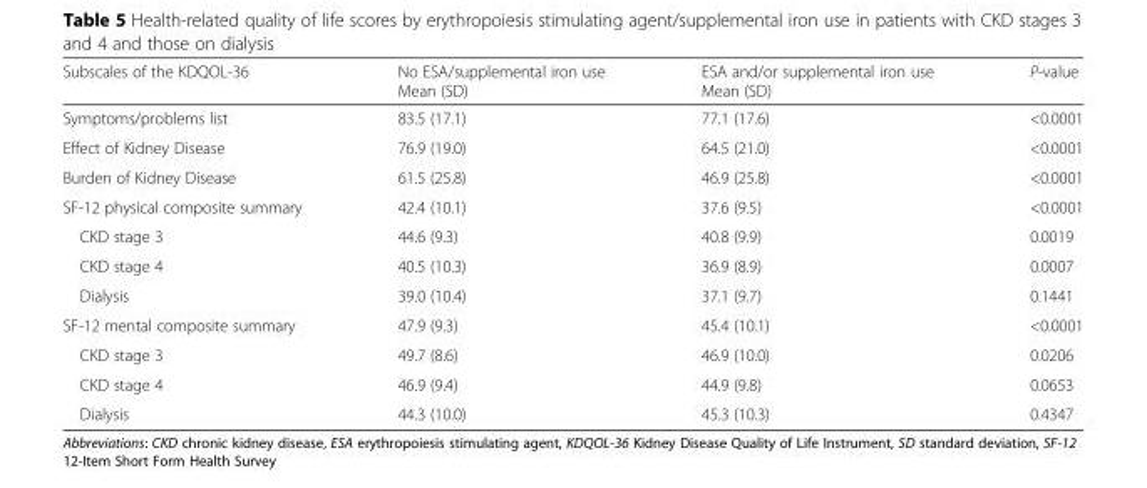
<table><thead><tr><td>Subscales of the KDQOL-36</td><td>No ESA/supplemental iron use Mean (SD)</td><td>ESA and/or supplemental iron use Mean (SD)</td><td>P-value</td></tr></thead><tbody><tr><td>Symptoms/problems list</td><td>83.5 (17.1)</td><td>77.1 (17.6)</td><td>&lt;0.0001</td></tr><tr><td>Effect of Kidney Disease</td><td>76.9 (19.0)</td><td>64.5 (21.0)</td><td>&lt;0.0001</td></tr><tr><td>Burden of Kidney Disease</td><td>61.5 (25.8)</td><td>46.9 (25.8)</td><td>&lt;0.0001</td></tr><tr><td>SF-12 physical composite summary</td><td>42.4 (10.1)</td><td>37.6 (9.5)</td><td>&lt;0.0001</td></tr><tr><td>CKD stage 3</td><td>44.6 (9.3)</td><td>40.8 (9.9)</td><td>0.0019</td></tr><tr><td>CKD stage 4</td><td>40.5 (10.3)</td><td>36.9 (8.9)</td><td>0.0007</td></tr><tr><td>Dialysis</td><td>39.0 (10.4)</td><td>37.1 (9.7)</td><td>0.1441</td></tr><tr><td>SF-12 mental composite summary</td><td>47.9 (9.3)</td><td>45.4 (10.1)</td><td>&lt;0.0001</td></tr><tr><td>CKD stage 3</td><td>49.7 (8.6)</td><td>46.9 (10.0)</td><td>0.0206</td></tr><tr><td>CKD stage 4</td><td>46.9 (9.4)</td><td>44.9 (9.8)</td><td>0.0653</td></tr><tr><td>Dialysis</td><td>44.3 (10.0)</td><td>45.3 (10.3)</td><td>0.4347</td></tr></tbody></table>